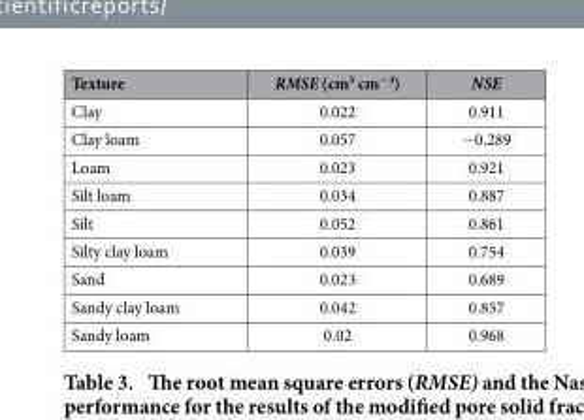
<table><thead><tr><td>Texture</td><td>RMSE (cm<sup>3</sup> cm<sup>−3</sup>)</td><td>NSE</td></tr></thead><tbody><tr><td>Clay</td><td>0.022</td><td>0.911</td></tr><tr><td>Clay loam</td><td>0.057</td><td>− 0.289</td></tr><tr><td>Loam</td><td>0.023</td><td>0.921</td></tr><tr><td>Silt loam</td><td>0.034</td><td>0.887</td></tr><tr><td>Silt</td><td>0.052</td><td>0.861</td></tr><tr><td>Silty clay loam</td><td>0.039</td><td>0.754</td></tr><tr><td>Sand</td><td>0.023</td><td>0.689</td></tr><tr><td>Sandy clay loam</td><td>0.042</td><td>0.857</td></tr><tr><td>Sandy loam</td><td>0.02</td><td>0.968</td></tr></tbody></table>